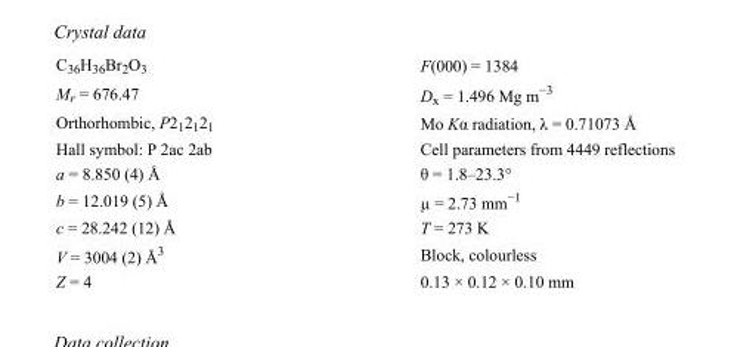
<table><tbody><tr><td>C<sub>36</sub>H<sub>36</sub>Br<sub>2</sub>O<sub>3</sub></td><td>F(000) = 1384</td></tr><tr><td>M<sub>r</sub> = 676.47</td><td>D<sub>x</sub> = 1.496 Mg m<sup>−3</sup></td></tr><tr><td>Orthorhombic, P2<sub>1</sub>2<sub>1</sub>2<sub>1</sub></td><td>Mo Kα radiation, λ = 0.71073 Å</td></tr><tr><td>Hall symbol: P 2ac 2ab</td><td>Cell parameters from 4449 reflections</td></tr><tr><td>a = 8.850 (4) Å</td><td>θ = 1.8–23.3°</td></tr><tr><td>b = 12.019 (5) Å</td><td>µ = 2.73 mm<sup>−1</sup></td></tr><tr><td>c = 28.242 (12) Å</td><td>T = 273 K</td></tr><tr><td>V = 3004 (2) Å<sup>3</sup></td><td>Block, colourless</td></tr><tr><td>Z = 4</td><td>0.13 × 0.12 × 0.10 mm</td></tr></tbody></table>